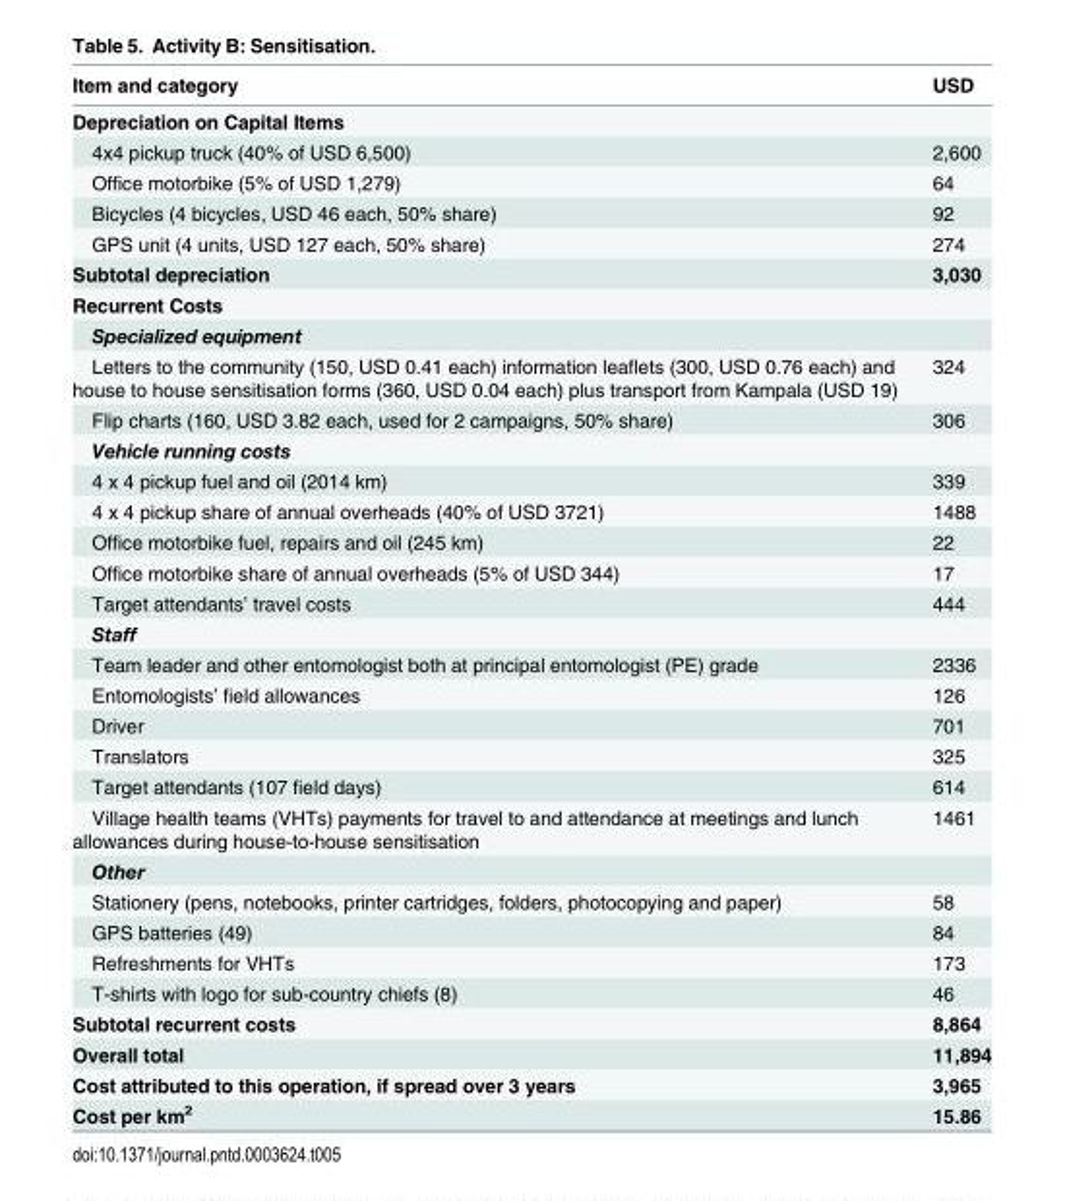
<table><thead><tr><td>Item and category</td><td>USD</td></tr></thead><tbody><tr><td colspan="2">Depreciation on Capital Items</td></tr><tr><td>4x4 pickup truck (40% of USD 6,500)</td><td>2,600</td></tr><tr><td>Office motorbike (5% of USD 1,279)</td><td>64</td></tr><tr><td>Bicycles (4 bicycles, USD 46 each, 50% share)</td><td>92</td></tr><tr><td>GPS unit (4 units, USD 127 each, 50% share)</td><td>274</td></tr><tr><td>Subtotal depreciation</td><td>3,030</td></tr><tr><td colspan="2">Recurrent Costs</td></tr><tr><td colspan="2">Specialized equipment</td></tr><tr><td>Letters to the community (150, USD 0.41 each) information leaflets (300, USD 0.76 each) and house to house sensitisation forms (360, USD 0.04 each) plus transport from Kampala (USD 19)</td><td>324</td></tr><tr><td>Flip charts (160, USD 3.82 each, used for 2 campaigns, 50% share)</td><td>306</td></tr><tr><td colspan="2">Vehicle running costs</td></tr><tr><td>4 x 4 pickup fuel and oil (2014 km)</td><td>339</td></tr><tr><td>4 x 4 pickup share of annual overheads (40% of USD 3721)</td><td>1488</td></tr><tr><td>Office motorbike fuel, repairs and oil (245 km)</td><td>22</td></tr><tr><td>Office motorbike share of annual overheads (5% of USD 344)</td><td>17</td></tr><tr><td>Target attendants’ travel costs</td><td>444</td></tr><tr><td colspan="2">Staff</td></tr><tr><td>Team leader and other entomologist both at principal entomologist (PE) grade</td><td>2336</td></tr><tr><td>Entomologists’ field allowances</td><td>126</td></tr><tr><td>Driver</td><td>701</td></tr><tr><td>Translators</td><td>325</td></tr><tr><td>Target attendants (107 field days)</td><td>614</td></tr><tr><td>Village health teams (VHTs) payments for travel to and attendance at meetings and lunch allowances during house-to-house sensitisation</td><td>1461</td></tr><tr><td colspan="2">Other</td></tr><tr><td>Stationery (pens, notebooks, printer cartridges, folders, photocopying and paper)</td><td>58</td></tr><tr><td>GPS batteries (49)</td><td>84</td></tr><tr><td>Refreshments for VHTs</td><td>173</td></tr><tr><td>T-shirts with logo for sub-country chiefs (8)</td><td>46</td></tr><tr><td>Subtotal recurrent costs</td><td>8,864</td></tr><tr><td>Overall total</td><td>11,894</td></tr><tr><td>Cost attributed to this operation, if spread over 3 years</td><td>3,965</td></tr><tr><td>Cost per km<sup>2</sup></td><td>15.86</td></tr></tbody></table>